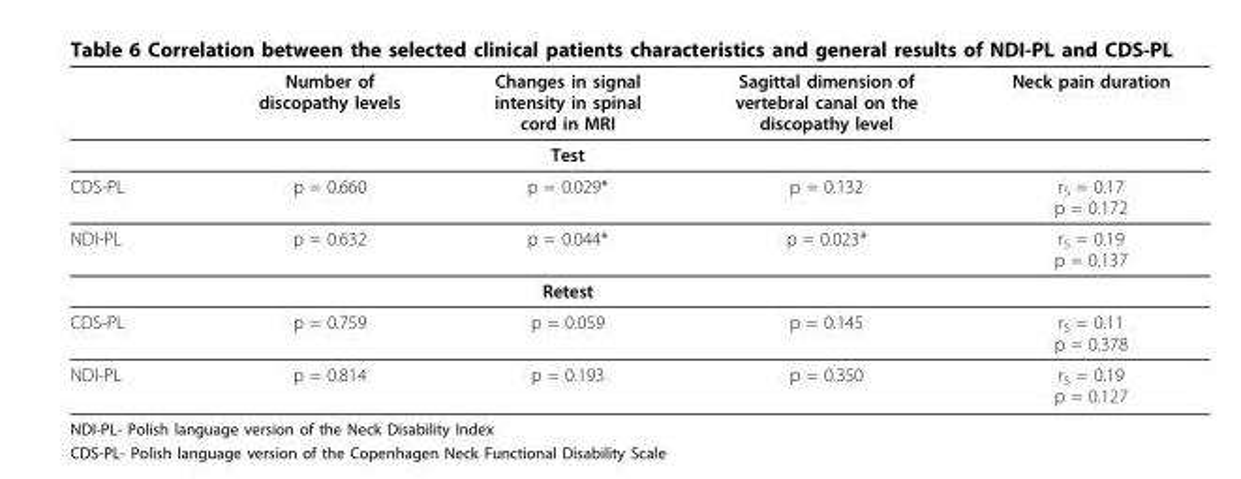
<table><thead><tr><td></td><td>Number of discopathy levels</td><td>Changes in signal intensity in spinal cord in MRI</td><td>Sagittal dimension of vertebral canal on the discopathy level</td><td>Neck pain duration</td></tr></thead><tbody><tr><td></td><td></td><td>Test</td><td></td><td></td></tr><tr><td>CDS-PL</td><td>p = 0.660</td><td>p = 0.029*</td><td>p = 0.132</td><td>r<sub>S</sub> = 0.17 p = 0.172</td></tr><tr><td rowspan="2">NDI-PL</td><td>p = 0.632</td><td>p = 0.044*</td><td>p = 0.023*</td><td>r<sub>S</sub> = 0.19 p = 0.137</td></tr><tr><td></td><td>Retest</td><td></td><td></td></tr><tr><td>CDS-PL</td><td>p = 0.759</td><td>p = 0.059</td><td>p = 0.145</td><td>r<sub>S</sub> = 0.11 p = 0.378</td></tr><tr><td>NDI-PL</td><td>p = 0.814</td><td>p = 0.193</td><td>p = 0.350</td><td>r<sub>S</sub> = 0.19 p = 0.127</td></tr></tbody></table>